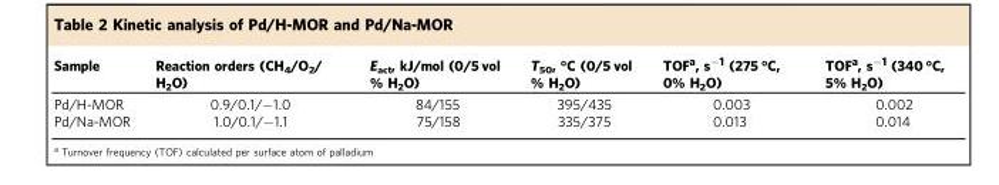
<table><thead><tr><td>Sample</td><td>Reaction orders (CH<sub>4</sub>/O<sub>2</sub>/ H<sub>2</sub>O)</td><td>E<sub>act</sub>, kJ/mol (0/5 vol % H<sub>2</sub>O)</td><td>T<sub>50</sub>, °C (0/5 vol % H<sub>2</sub>O)</td><td>TOF<sup>a</sup>, s<sup>−1</sup> (275 °C, 0% H<sub>2</sub>O)</td><td>TOF<sup>a</sup>, s<sup>−1</sup> (340 °C, 5% H<sub>2</sub>O)</td></tr></thead><tbody><tr><td>Pd/H-MOR</td><td>0.9/0.1/−1.0</td><td>84/155</td><td>395/435</td><td>0.003</td><td>0.002</td></tr><tr><td>Pd/Na-MOR</td><td>1.0/0.1/−1.1</td><td>75/158</td><td>335/375</td><td>0.013</td><td>0.014</td></tr></tbody></table>